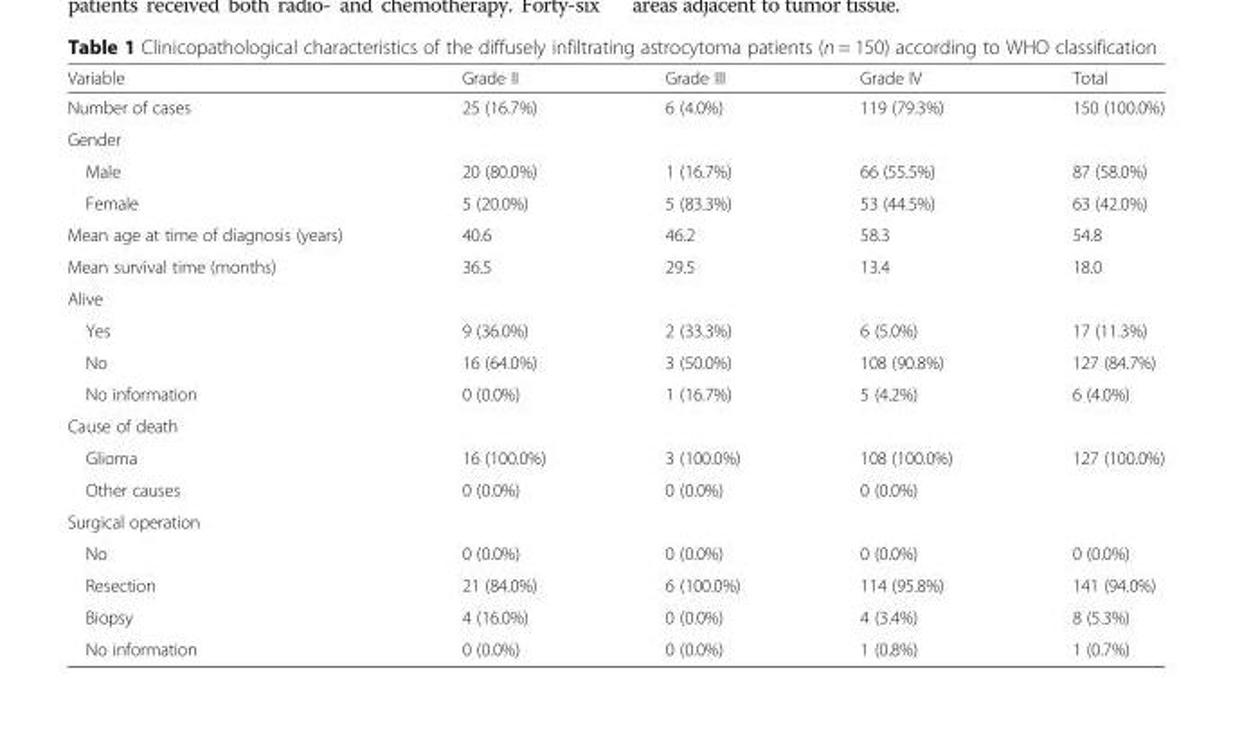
<table><thead><tr><td>Variable</td><td>Grade II</td><td>Grade III</td><td>Grade IV</td><td>Total</td></tr></thead><tbody><tr><td>Number of cases</td><td>25 (16.7%)</td><td>6 (4.0%)</td><td>119 (79.3%)</td><td>150 (100.0%)</td></tr><tr><td colspan="5">Gender</td></tr><tr><td>Male</td><td>20 (80.0%)</td><td>1 (16.7%)</td><td>66 (55.5%)</td><td>87 (58.0%)</td></tr><tr><td>Female</td><td>5 (20.0%)</td><td>5 (83.3%)</td><td>53 (44.5%)</td><td>63 (42.0%)</td></tr><tr><td>Mean age at time of diagnosis (years)</td><td>40.6</td><td>46.2</td><td>58.3</td><td>54.8</td></tr><tr><td>Mean survival time (months)</td><td>36.5</td><td>29.5</td><td>13.4</td><td>18.0</td></tr><tr><td colspan="5">Alive</td></tr><tr><td>Yes</td><td>9 (36.0%)</td><td>2 (33.3%)</td><td>6 (5.0%)</td><td>17 (11.3%)</td></tr><tr><td>No</td><td>16 (64.0%)</td><td>3 (50.0%)</td><td>108 (90.8%)</td><td>127 (84.7%)</td></tr><tr><td>No information</td><td>0 (0.0%)</td><td>1 (16.7%)</td><td>5 (4.2%)</td><td>6 (4.0%)</td></tr><tr><td colspan="5">Cause of death</td></tr><tr><td>Glioma</td><td>16 (100.0%)</td><td>3 (100.0%)</td><td>108 (100.0%)</td><td>127 (100.0%)</td></tr><tr><td>Other causes</td><td>0 (0.0%)</td><td>0 (0.0%)</td><td>0 (0.0%)</td><td></td></tr><tr><td colspan="5">Surgical operation</td></tr><tr><td>No</td><td>0 (0.0%)</td><td>0 (0.0%)</td><td>0 (0.0%)</td><td>0 (0.0%)</td></tr><tr><td>Resection</td><td>21 (84.0%)</td><td>6 (100.0%)</td><td>114 (95.8%)</td><td>141 (94.0%)</td></tr><tr><td>Biopsy</td><td>4 (16.0%)</td><td>0 (0.0%)</td><td>4 (3.4%)</td><td>8 (5.3%)</td></tr><tr><td>No information</td><td>0 (0.0%)</td><td>0 (0.0%)</td><td>1 (0.8%)</td><td>1 (0.7%)</td></tr></tbody></table>